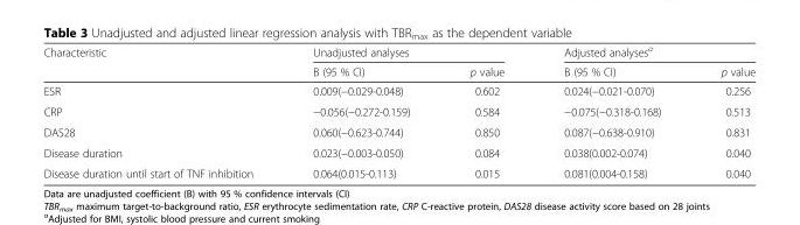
<table><thead><tr><td rowspan="2">Characteristic</td><td colspan="2">Unadjusted analyses</td><td colspan="2">Adjusted analyses<sup>α</sup></td></tr><tr><td>B (95 % CI)</td><td>p value</td><td>B (95 % CI)</td><td>p value</td></tr></thead><tbody><tr><td>ESR</td><td>0.009(−0.029-0.048)</td><td>0.602</td><td>0.024(−0.021-0.070)</td><td>0.256</td></tr><tr><td>CRP</td><td>−0.056(−0.272-0.159)</td><td>0.584</td><td>−0.075(−0.318-0.168)</td><td>0.513</td></tr><tr><td>DAS28</td><td>0.060(−0.623-0.744)</td><td>0.850</td><td>0.087(−0.638-0.910)</td><td>0.831</td></tr><tr><td>Disease duration</td><td>0.023(−0.003-0.050)</td><td>0.084</td><td>0.038(0.002-0.074)</td><td>0.040</td></tr><tr><td>Disease duration until start of TNF inhibition</td><td>0.064(0.015-0.113)</td><td>0.015</td><td>0.081(0.004-0.158)</td><td>0.040</td></tr></tbody></table>